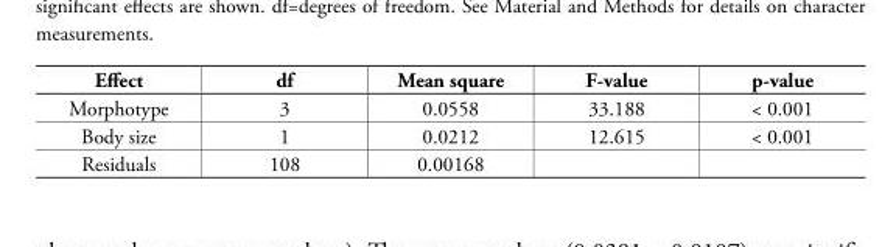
<table><thead><tr><td>Effect</td><td>df</td><td>Mean square</td><td>F-value</td><td>p-value</td></tr></thead><tbody><tr><td>Morphotype</td><td>3</td><td>0.0558</td><td>33.188</td><td>&lt; 0.001</td></tr><tr><td>Body size</td><td>1</td><td>0.0212</td><td>12.615</td><td>&lt; 0.001</td></tr><tr><td>Residuals</td><td>108</td><td>0.00168</td><td></td><td></td></tr></tbody></table>